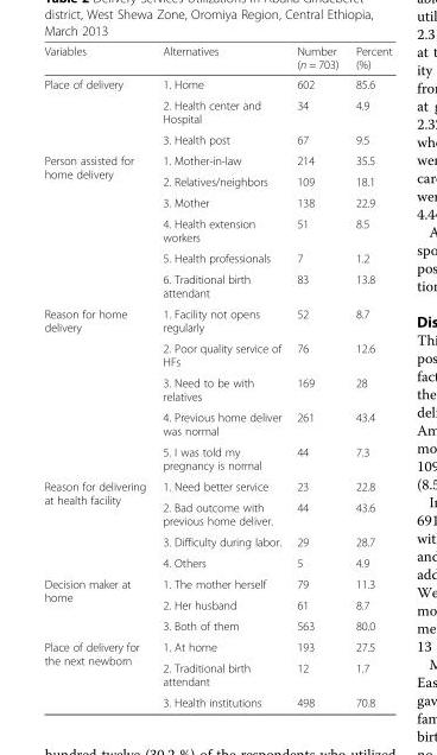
<table><thead><tr><td>Variables</td><td>Alternatives</td><td>Number (n = 703)</td><td>Percent (%)</td></tr></thead><tbody><tr><td rowspan="3">Place of delivery</td><td>1. Home</td><td>602</td><td>85.6</td></tr><tr><td>2. Health center and Hospital</td><td>34</td><td>4.9</td></tr><tr><td>3. Health post</td><td>67</td><td>9.5</td></tr><tr><td rowspan="6">Person assisted for home delivery</td><td>1. Mother-in-law</td><td>214</td><td>35.5</td></tr><tr><td>2. Relatives/neighbors</td><td>109</td><td>18.1</td></tr><tr><td>3. Mother</td><td>138</td><td>22.9</td></tr><tr><td>4. Health extension workers</td><td>51</td><td>8.5</td></tr><tr><td>5. Health professionals</td><td>7</td><td>1.2</td></tr><tr><td>6. Traditional birth attendant</td><td>83</td><td>13.8</td></tr><tr><td rowspan="5">Reason for home delivery</td><td>1. Facility not opens regularly</td><td>52</td><td>8.7</td></tr><tr><td>2. Poor quality service of HFs</td><td>76</td><td>12.6</td></tr><tr><td>3. Need to be with relatives</td><td>169</td><td>28</td></tr><tr><td>4. Previous home deliver was normal</td><td>261</td><td>43.4</td></tr><tr><td>5. I was told my pregnancy is normal</td><td>44</td><td>7.3</td></tr><tr><td rowspan="4">Reason for delivering at health facility</td><td>1. Need better service</td><td>23</td><td>22.8</td></tr><tr><td>2. Bad outcome with previous home deliver.</td><td>44</td><td>43.6</td></tr><tr><td>3. Difficulty during labor.</td><td>29</td><td>28.7</td></tr><tr><td>4. Others</td><td>5</td><td>4.9</td></tr><tr><td rowspan="3">Decision maker at home</td><td>1. The mother herself</td><td>79</td><td>11.3</td></tr><tr><td>2. Her husband</td><td>61</td><td>8.7</td></tr><tr><td>3. Both of them</td><td>563</td><td>80.0</td></tr><tr><td rowspan="3">Place of delivery for the next newborn</td><td>1. At home</td><td>193</td><td>27.5</td></tr><tr><td>2. Traditional birth attendant</td><td>12</td><td>1.7</td></tr><tr><td>3. Health institutions</td><td>498</td><td>70.8</td></tr></tbody></table>